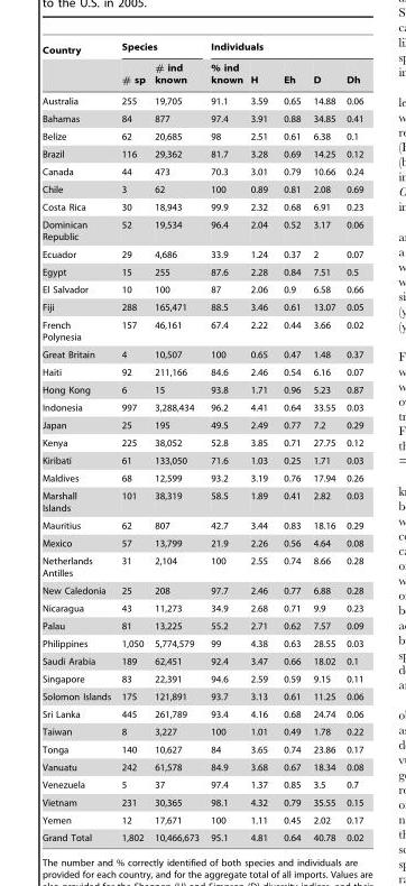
<table><thead><tr><td rowspan="2">Country</td><td colspan="2">Species</td><td colspan="5">Individuals</td></tr><tr><td># sp</td><td># ind known</td><td>% ind known</td><td>H</td><td>Eh</td><td>D</td><td>Dh</td></tr></thead><tbody><tr><td>Australia</td><td>255</td><td>19,705</td><td>91.1</td><td>3.59</td><td>0.65</td><td>14.88</td><td>0.06</td></tr><tr><td>Bahamas</td><td>84</td><td>877</td><td>97.4</td><td>3.91</td><td>0.88</td><td>34.85</td><td>0.41</td></tr><tr><td>Belize</td><td>62</td><td>20,685</td><td>98</td><td>2.51</td><td>0.61</td><td>6.38</td><td>0.1</td></tr><tr><td>Brazil</td><td>116</td><td>29,362</td><td>81.7</td><td>3.28</td><td>0.69</td><td>14.25</td><td>0.12</td></tr><tr><td>Canada</td><td>44</td><td>473</td><td>70.3</td><td>3.01</td><td>0.79</td><td>10.66</td><td>0.24</td></tr><tr><td>Chile</td><td>3</td><td>62</td><td>100</td><td>0.89</td><td>0.81</td><td>2.08</td><td>0.69</td></tr><tr><td>Costa Rica</td><td>30</td><td>18,943</td><td>99.9</td><td>2.32</td><td>0.68</td><td>6.91</td><td>0.23</td></tr><tr><td>Dominican Republic</td><td>52</td><td>19,534</td><td>96.4</td><td>2.04</td><td>0.52</td><td>3.17</td><td>0.06</td></tr><tr><td>Ecuador</td><td>29</td><td>4,686</td><td>33.9</td><td>1.24</td><td>0.37</td><td>2</td><td>0.07</td></tr><tr><td>Egypt</td><td>15</td><td>255</td><td>87.6</td><td>2.28</td><td>0.84</td><td>7.51</td><td>0.5</td></tr><tr><td>El Salvador</td><td>10</td><td>100</td><td>87</td><td>2.06</td><td>0.9</td><td>6.58</td><td>0.66</td></tr><tr><td>Fiji</td><td>288</td><td>165,471</td><td>88.5</td><td>3.46</td><td>0.61</td><td>13.07</td><td>0.05</td></tr><tr><td>French Polynesia</td><td>157</td><td>46,161</td><td>67.4</td><td>2.22</td><td>0.44</td><td>3.66</td><td>0.02</td></tr><tr><td>Great Britain</td><td>4</td><td>10,507</td><td>100</td><td>0.65</td><td>0.47</td><td>1.48</td><td>0.37</td></tr><tr><td>Haiti</td><td>92</td><td>211,166</td><td>84.6</td><td>2.46</td><td>0.54</td><td>6.16</td><td>0.07</td></tr><tr><td>Hong Kong</td><td>6</td><td>15</td><td>93.8</td><td>1.71</td><td>0.96</td><td>5.23</td><td>0.87</td></tr><tr><td>Indonesia</td><td>997</td><td>3,288,434</td><td>96.2</td><td>4.41</td><td>0.64</td><td>33.55</td><td>0.03</td></tr><tr><td>Japan</td><td>25</td><td>195</td><td>49.5</td><td>2.49</td><td>0.77</td><td>7.2</td><td>0.29</td></tr><tr><td>Kenya</td><td>225</td><td>38,052</td><td>52.8</td><td>3.85</td><td>0.71</td><td>27.75</td><td>0.12</td></tr><tr><td>Kiribati</td><td>61</td><td>133,050</td><td>71.6</td><td>1.03</td><td>0.25</td><td>1.71</td><td>0.03</td></tr><tr><td>Maldives</td><td>68</td><td>12,599</td><td>93.2</td><td>3.19</td><td>0.76</td><td>17.94</td><td>0.26</td></tr><tr><td>Marshall Islands</td><td>101</td><td>38,319</td><td>58.5</td><td>1.89</td><td>0.41</td><td>2.82</td><td>0.03</td></tr><tr><td>Mauritius</td><td>62</td><td>807</td><td>42.7</td><td>3.44</td><td>0.83</td><td>18.16</td><td>0.29</td></tr><tr><td>Mexico</td><td>57</td><td>13,799</td><td>21.9</td><td>2.26</td><td>0.56</td><td>4.64</td><td>0.08</td></tr><tr><td>Netherlands Antilles</td><td>31</td><td>2,104</td><td>100</td><td>2.55</td><td>0.74</td><td>8.66</td><td>0.28</td></tr><tr><td>New Caledonia</td><td>25</td><td>208</td><td>97.7</td><td>2.46</td><td>0.77</td><td>6.88</td><td>0.28</td></tr><tr><td>Nicaragua</td><td>43</td><td>11,273</td><td>34.9</td><td>2.68</td><td>0.71</td><td>9.9</td><td>0.23</td></tr><tr><td>Palau</td><td>81</td><td>13,225</td><td>55.2</td><td>2.71</td><td>0.62</td><td>7.57</td><td>0.09</td></tr><tr><td>Philippines</td><td>1,050</td><td>5,774,579</td><td>99</td><td>4.38</td><td>0.63</td><td>28.55</td><td>0.03</td></tr><tr><td>Saudi Arabia</td><td>189</td><td>62,451</td><td>92.4</td><td>3.47</td><td>0.66</td><td>18.02</td><td>0.1</td></tr><tr><td>Singapore</td><td>83</td><td>22,391</td><td>94.6</td><td>2.59</td><td>0.59</td><td>9.15</td><td>0.11</td></tr><tr><td>Solomon Islands</td><td>175</td><td>121,891</td><td>93.7</td><td>3.13</td><td>0.61</td><td>11.25</td><td>0.06</td></tr><tr><td>Sri Lanka</td><td>445</td><td>261,789</td><td>93.4</td><td>4.16</td><td>0.68</td><td>24.74</td><td>0.06</td></tr><tr><td>Taiwan</td><td>8</td><td>3,227</td><td>100</td><td>1.01</td><td>0.49</td><td>1.78</td><td>0.22</td></tr><tr><td>Tonga</td><td>140</td><td>10,627</td><td>84</td><td>3.65</td><td>0.74</td><td>23.86</td><td>0.17</td></tr><tr><td>Vanuatu</td><td>242</td><td>61,578</td><td>84.9</td><td>3.68</td><td>0.67</td><td>18.34</td><td>0.08</td></tr><tr><td>Venezuela</td><td>5</td><td>37</td><td>97.4</td><td>1.37</td><td>0.85</td><td>3.5</td><td>0.7</td></tr><tr><td>Vietnam</td><td>231</td><td>30,365</td><td>98.1</td><td>4.32</td><td>0.79</td><td>35.55</td><td>0.15</td></tr><tr><td>Yemen</td><td>12</td><td>17,671</td><td>100</td><td>1.11</td><td>0.45</td><td>2.02</td><td>0.17</td></tr><tr><td>Grand Total</td><td>1,802</td><td>10,466,673</td><td>95.1</td><td>4.81</td><td>0.64</td><td>40.78</td><td>0.02</td></tr></tbody></table>